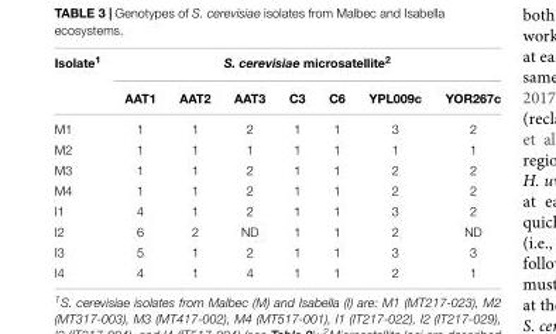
<table><thead><tr><td rowspan="2">Isolate<sup>1</sup></td><td colspan="7">S. cerevisiae microsatellite<sup>2</sup></td></tr><tr><td>AAT1</td><td>AAT2</td><td>AAT3</td><td>C3</td><td>C6</td><td>YPL009c</td><td>YOR267c</td></tr></thead><tbody><tr><td>M1</td><td>1</td><td>1</td><td>2</td><td>1</td><td>1</td><td>3</td><td>2</td></tr><tr><td>M2</td><td>1</td><td>1</td><td>1</td><td>1</td><td>1</td><td>1</td><td>1</td></tr><tr><td>M3</td><td>1</td><td>1</td><td>2</td><td>1</td><td>1</td><td>2</td><td>2</td></tr><tr><td>M4</td><td>1</td><td>1</td><td>2</td><td>1</td><td>1</td><td>2</td><td>2</td></tr><tr><td>I1</td><td>4</td><td>1</td><td>2</td><td>1</td><td>1</td><td>3</td><td>2</td></tr><tr><td>I2</td><td>6</td><td>2</td><td>ND</td><td>1</td><td>1</td><td>2</td><td>ND</td></tr><tr><td>I3</td><td>5</td><td>1</td><td>2</td><td>1</td><td>1</td><td>3</td><td>3</td></tr><tr><td>I4</td><td>4</td><td>1</td><td>4</td><td>1</td><td>1</td><td>2</td><td>1</td></tr></tbody></table>